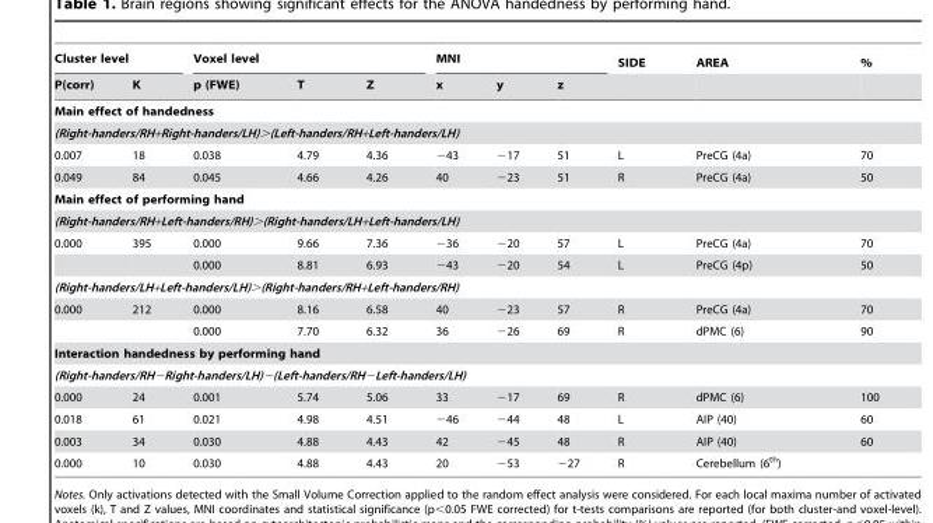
<table><thead><tr><td colspan="2">Cluster level</td><td colspan="3">Voxel level</td><td colspan="3">MNI</td><td rowspan="2">SIDE</td><td rowspan="2">AREA</td><td rowspan="2">%</td></tr><tr><td>P(corr)</td><td>K</td><td>p (FWE)</td><td>T</td><td>Z</td><td>x</td><td>y</td><td>z</td></tr></thead><tbody><tr><td colspan="11">Main effect of handedness</td></tr><tr><td colspan="11">(Right-handers/RH+Right-handers/LH)&gt;(Left-handers/RH+Left-handers/LH)</td></tr><tr><td>0.007</td><td>18</td><td>0.038</td><td>4.79</td><td>4.36</td><td>−43</td><td>−17</td><td>51</td><td>L</td><td>PreCG (4a)</td><td>70</td></tr><tr><td>0.049</td><td>84</td><td>0.045</td><td>4.66</td><td>4.26</td><td>40</td><td>−23</td><td>51</td><td>R</td><td>PreCG (4a)</td><td>50</td></tr><tr><td colspan="11">Main effect of performing hand</td></tr><tr><td colspan="11">(Right-handers/RH+Left-handers/RH)&gt;(Right-handers/LH+Left-handers/LH)</td></tr><tr><td rowspan="2">0.000</td><td>395</td><td>0.000</td><td>9.66</td><td>7.36</td><td>−36</td><td>−20</td><td>57</td><td>L</td><td>PreCG (4a)</td><td>70</td></tr><tr><td></td><td>0.000</td><td>8.81</td><td>6.93</td><td>−43</td><td>−20</td><td>54</td><td>L</td><td>PreCG (4p)</td><td>50</td></tr><tr><td colspan="11">(Right-handers/LH+Left-handers/LH)&gt;(Right-handers/RH+Left-handers/RH)</td></tr><tr><td rowspan="2">0.000</td><td>212</td><td>0.000</td><td>8.16</td><td>6.58</td><td>40</td><td>−23</td><td>57</td><td>R</td><td>PreCG (4a)</td><td>70</td></tr><tr><td></td><td>0.000</td><td>7.70</td><td>6.32</td><td>36</td><td>−26</td><td>69</td><td>R</td><td>dPMC (6)</td><td>90</td></tr><tr><td colspan="11">Interaction handedness by performing hand</td></tr><tr><td colspan="11">(Right-handers/RH−Right-handers/LH)−(Left-handers/RH−Left-handers/LH)</td></tr><tr><td>0.000</td><td>24</td><td>0.001</td><td>5.74</td><td>5.06</td><td>33</td><td>−17</td><td>69</td><td>R</td><td>dPMC (6)</td><td>100</td></tr><tr><td>0.018</td><td>61</td><td>0.021</td><td>4.98</td><td>4.51</td><td>−46</td><td>−44</td><td>48</td><td>L</td><td>AIP (40)</td><td>60</td></tr><tr><td>0.003</td><td>34</td><td>0.030</td><td>4.88</td><td>4.43</td><td>42</td><td>−45</td><td>48</td><td>R</td><td>AIP (40)</td><td>60</td></tr><tr><td>0.000</td><td>10</td><td>0.030</td><td>4.88</td><td>4.43</td><td>20</td><td>−53</td><td>−27</td><td>R</td><td>Cerebellum (6<sup>th</sup>)</td><td></td></tr></tbody></table>